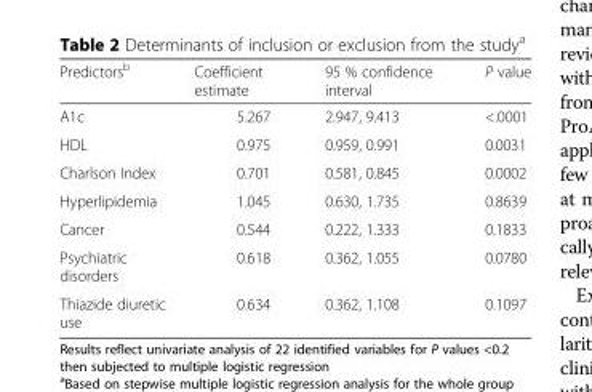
<table><thead><tr><td>Predictors<sup>b</sup></td><td>Coefficient estimate</td><td>95 % confidence interval</td><td>P value</td></tr></thead><tbody><tr><td>A1c</td><td>5.267</td><td>2.947, 9.413</td><td>&lt;.0001</td></tr><tr><td>HDL</td><td>0.975</td><td>0.959, 0.991</td><td>0.0031</td></tr><tr><td>Charlson Index</td><td>0.701</td><td>0.581, 0.845</td><td>0.0002</td></tr><tr><td>Hyperlipidemia</td><td>1.045</td><td>0.630, 1.735</td><td>0.8639</td></tr><tr><td>Cancer</td><td>0.544</td><td>0.222, 1.333</td><td>0.1833</td></tr><tr><td>Psychiatric disorders</td><td>0.618</td><td>0.362, 1.055</td><td>0.0780</td></tr><tr><td>Thiazide diuretic use</td><td>0.634</td><td>0.362, 1.108</td><td>0.1097</td></tr></tbody></table>